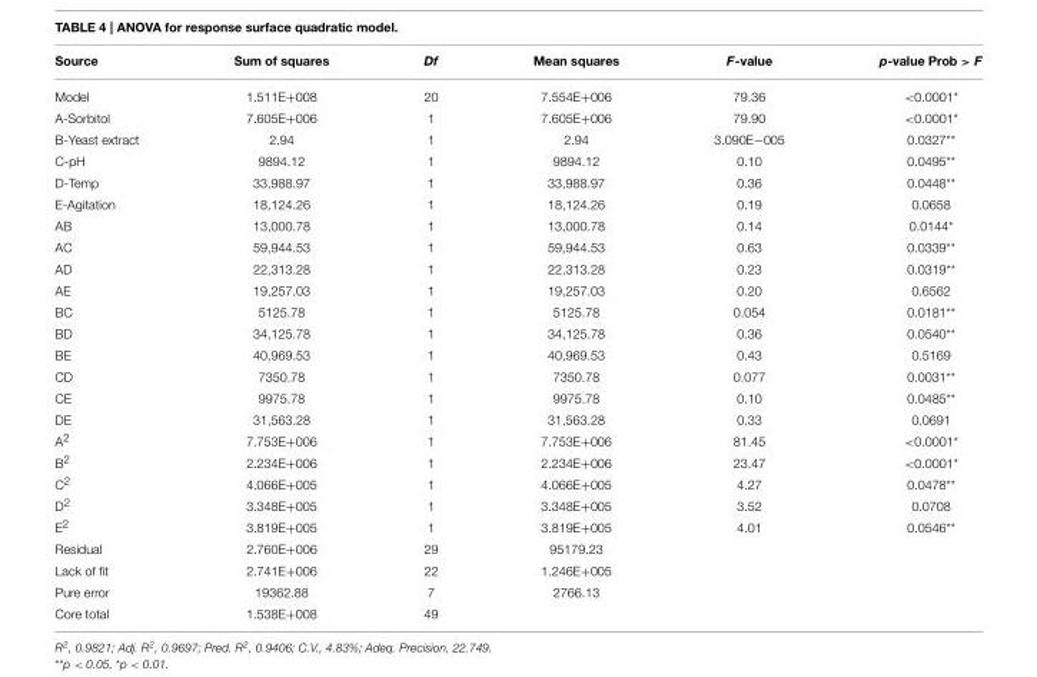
<table><thead><tr><td>Source</td><td>Sum of squares</td><td>Df</td><td>Mean squares</td><td>F-value</td><td>p-value Prob &gt; F</td></tr></thead><tbody><tr><td>Model</td><td>1.511E+008</td><td>20</td><td>7.554E+006</td><td>79.36</td><td>&lt;0.0001*</td></tr><tr><td>A-Sorbitol</td><td>7.605E+006</td><td>1</td><td>7.605E+006</td><td>79.90</td><td>&lt;0.0001*</td></tr><tr><td>B-Yeast extract</td><td>2.94</td><td>1</td><td>2.94</td><td>3.090E−005</td><td>0.0327**</td></tr><tr><td>C-pH</td><td>9894.12</td><td>1</td><td>9894.12</td><td>0.10</td><td>0.0495**</td></tr><tr><td>D-Temp</td><td>33,988.97</td><td>1</td><td>33,988.97</td><td>0.36</td><td>0.0448**</td></tr><tr><td>E-Agitation</td><td>18,124.26</td><td>1</td><td>18,124.26</td><td>0.19</td><td>0.0658</td></tr><tr><td>AB</td><td>13,000.78</td><td>1</td><td>13,000.78</td><td>0.14</td><td>0.0144*</td></tr><tr><td>AC</td><td>59,944.53</td><td>1</td><td>59,944.53</td><td>0.63</td><td>0.0339**</td></tr><tr><td>AD</td><td>22,313.28</td><td>1</td><td>22,313.28</td><td>0.23</td><td>0.0319**</td></tr><tr><td>AE</td><td>19,257.03</td><td>1</td><td>19,257.03</td><td>0.20</td><td>0.6562</td></tr><tr><td>BC</td><td>5125.78</td><td>1</td><td>5125.78</td><td>0.054</td><td>0.0181**</td></tr><tr><td>BD</td><td>34,125.78</td><td>1</td><td>34,125.78</td><td>0.36</td><td>0.0540**</td></tr><tr><td>BE</td><td>40,969.53</td><td>1</td><td>40,969.53</td><td>0.43</td><td>0.5169</td></tr><tr><td>CD</td><td>7350.78</td><td>1</td><td>7350.78</td><td>0.077</td><td>0.0031**</td></tr><tr><td>CE</td><td>9975.78</td><td>1</td><td>9975.78</td><td>0.10</td><td>0.0485**</td></tr><tr><td>DE</td><td>31,563.28</td><td>1</td><td>31,563.28</td><td>0.33</td><td>0.0691</td></tr><tr><td>A2</td><td>7.753E+006</td><td>1</td><td>7.753E+006</td><td>81.45</td><td>&lt;0.0001*</td></tr><tr><td>B2</td><td>2.234E+006</td><td>1</td><td>2.234E+006</td><td>23.47</td><td>&lt;0.0001*</td></tr><tr><td>C2</td><td>4.066E+005</td><td>1</td><td>4.066E+005</td><td>4.27</td><td>0.0478**</td></tr><tr><td>D2</td><td>3.348E+005</td><td>1</td><td>3.348E+005</td><td>3.52</td><td>0.0708</td></tr><tr><td>E2</td><td>3.819E+005</td><td>1</td><td>3.819E+005</td><td>4.01</td><td>0.0546**</td></tr><tr><td>Residual</td><td>2.760E+006</td><td>29</td><td>95179.23</td><td></td><td></td></tr><tr><td>Lack of fit</td><td>2.741E+006</td><td>22</td><td>1.246E+005</td><td></td><td></td></tr><tr><td>Pure error</td><td>19362.88</td><td>7</td><td>2766.13</td><td></td><td></td></tr><tr><td>Core total</td><td>1.538E+008</td><td>49</td><td></td><td></td><td></td></tr></tbody></table>